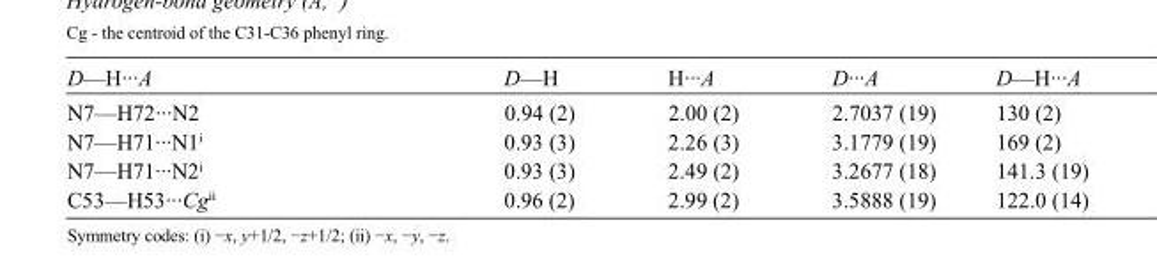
<table><tbody><tr><td>D—H···A</td><td>D—H</td><td>H···A</td><td>D···A</td><td>D—H···A</td></tr><tr><td>N7—H72···N2</td><td>0.94 (2)</td><td>2.00 (2)</td><td>2.7037 (19)</td><td>130 (2)</td></tr><tr><td>N7—H71···N1<sup>i</sup></td><td>0.93 (3)</td><td>2.26 (3)</td><td>3.1779 (19)</td><td>169 (2)</td></tr><tr><td>N7—H71···N2<sup>i</sup></td><td>0.93 (3)</td><td>2.49 (2)</td><td>3.2677 (18)</td><td>141.3 (19)</td></tr><tr><td>C53—H53···Cg<sup>ii</sup></td><td>0.96 (2)</td><td>2.99 (2)</td><td>3.5888 (19)</td><td>122.0 (14)</td></tr></tbody></table>